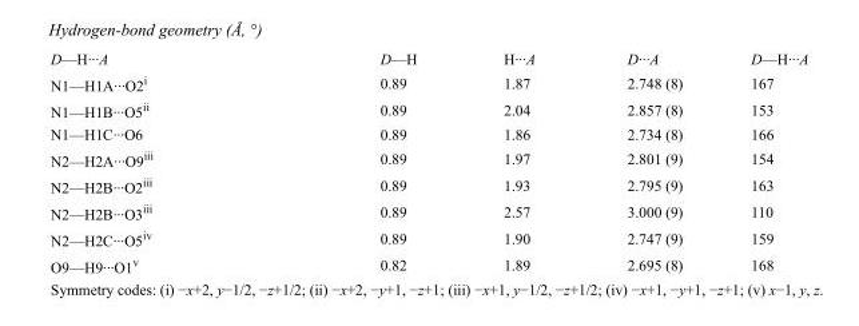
<table><tbody><tr><td>D—H···A</td><td>D—H</td><td>H···A</td><td>D···A</td><td>D—H···A</td></tr><tr><td>N1—H1A···O2<sup>i</sup></td><td>0.89</td><td>1.87</td><td>2.748 (8)</td><td>167</td></tr><tr><td>N1—H1B···O5<sup>ii</sup></td><td>0.89</td><td>2.04</td><td>2.857 (8)</td><td>153</td></tr><tr><td>N1—H1C···O6</td><td>0.89</td><td>1.86</td><td>2.734 (8)</td><td>166</td></tr><tr><td>N2—H2A···O9<sup>iii</sup></td><td>0.89</td><td>1.97</td><td>2.801 (9)</td><td>154</td></tr><tr><td>N2—H2B···O2<sup>iii</sup></td><td>0.89</td><td>1.93</td><td>2.795 (9)</td><td>163</td></tr><tr><td>N2—H2B···O3<sup>iii</sup></td><td>0.89</td><td>2.57</td><td>3.000 (9)</td><td>110</td></tr><tr><td>N2—H2C···O5<sup>iv</sup></td><td>0.89</td><td>1.90</td><td>2.747 (9)</td><td>159</td></tr><tr><td>O9—H9···O1<sup>v</sup></td><td>0.82</td><td>1.89</td><td>2.695 (8)</td><td>168</td></tr></tbody></table>